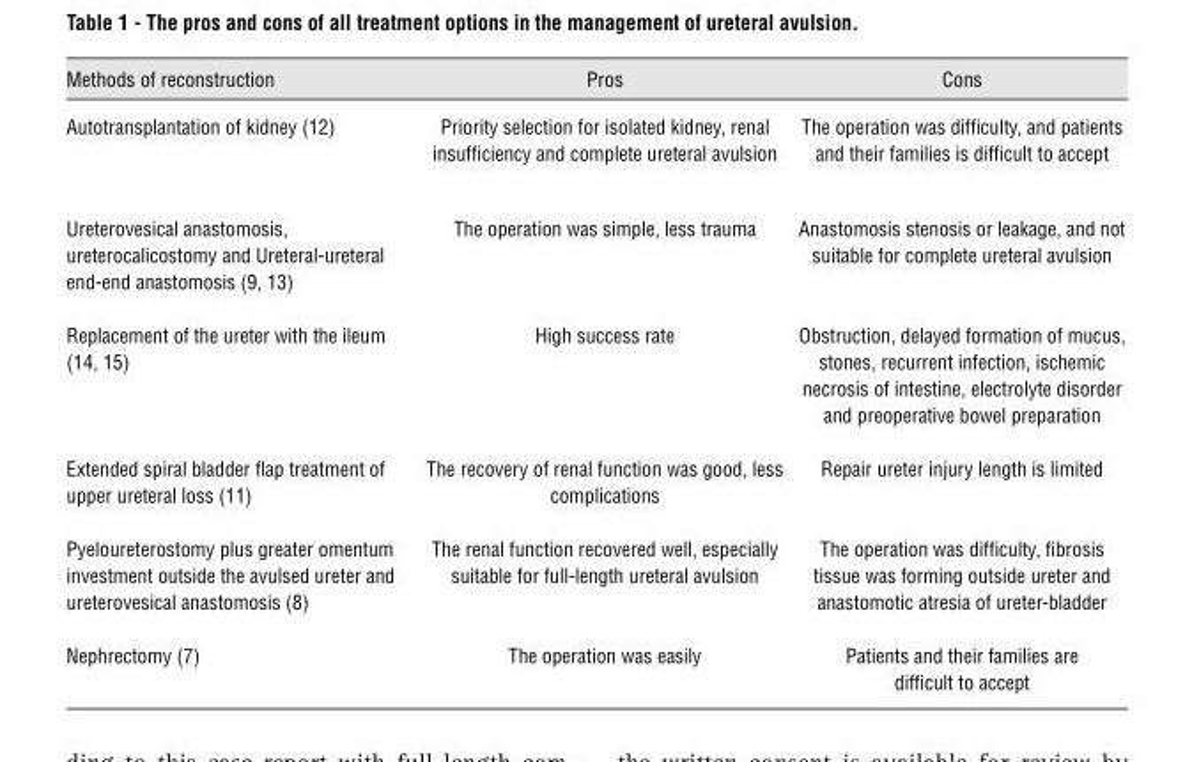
<table><thead><tr><td>Methods of reconstruction</td><td>Pros</td><td>Cons</td></tr></thead><tbody><tr><td>Autotransplantation of kidney (12)</td><td>Priority selection for isolated kidney, renal insufficiency and complete ureteral avulsion</td><td>The operation was difficulty, and patients and their families is difficult to accept</td></tr><tr><td>Ureterovesical anastomosis, ureterocalicostomy and Ureteral-ureteral end-end anastomosis (9, 13)</td><td>The operation was simple, less trauma</td><td>Anastomosis stenosis or leakage, and not suitable for complete ureteral avulsion</td></tr><tr><td>Replacement of the ureter with the ileum (14, 15)</td><td>High success rate</td><td>Obstruction, delayed formation of mucus, stones, recurrent infection, ischemic necrosis of intestine, electrolyte disorder and preoperative bowel preparation</td></tr><tr><td>Extended spiral bladder flap treatment of upper ureteral loss (11)</td><td>The recovery of renal function was good, less complications</td><td>Repair ureter injury length is limited</td></tr><tr><td>Pyeloureterostomy plus greater omentum investment outside the avulsed ureter and ureterovesical anastomosis (8)</td><td>The renal function recovered well, especially suitable for full-length ureteral avulsion</td><td>The operation was difficulty, fibrosis tissue was forming outside ureter and anastomotic atresia of ureter-bladder</td></tr><tr><td>Nephrectomy (7)</td><td>The operation was easily</td><td>Patients and their families are difficult to accept</td></tr></tbody></table>